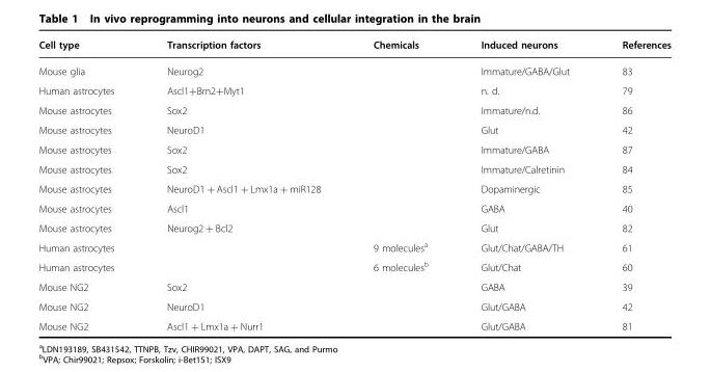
<table><thead><tr><td>Cell type</td><td>Transcription factors</td><td>Chemicals</td><td>Induced neurons</td><td>References</td></tr></thead><tbody><tr><td>Mouse glia</td><td>Neurog2</td><td></td><td>Immature/GABA/Glut</td><td>83</td></tr><tr><td>Human astrocytes</td><td>Ascl1+Brn2+Myt1</td><td></td><td>n. d.</td><td>79</td></tr><tr><td>Mouse astrocytes</td><td>Sox2</td><td></td><td>Immature/n.d.</td><td>86</td></tr><tr><td>Mouse astrocytes</td><td>NeuroD1</td><td></td><td>Glut</td><td>42</td></tr><tr><td>Mouse astrocytes</td><td>Sox2</td><td></td><td>Immature/GABA</td><td>87</td></tr><tr><td>Mouse astrocytes</td><td>Sox2</td><td></td><td>Immature/Calretinin</td><td>84</td></tr><tr><td>Mouse astrocytes</td><td>NeuroD1 + Ascl1 + Lmx1a + miR128</td><td></td><td>Dopaminergic</td><td>85</td></tr><tr><td>Mouse astrocytes</td><td>Ascl1</td><td></td><td>GABA</td><td>40</td></tr><tr><td>Mouse astrocytes</td><td>Neurog2 + Bcl2</td><td></td><td>Glut</td><td>82</td></tr><tr><td>Human astrocytes</td><td></td><td>9 molecules<sup>a</sup></td><td>Glut/Chat/GABA/TH</td><td>61</td></tr><tr><td>Human astrocytes</td><td></td><td>6 molecules<sup>b</sup></td><td>Glut/Chat</td><td>60</td></tr><tr><td>Mouse NG2</td><td>Sox2</td><td></td><td>GABA</td><td>39</td></tr><tr><td>Mouse NG2</td><td>NeuroD1</td><td></td><td>Glut/GABA</td><td>42</td></tr><tr><td>Mouse NG2</td><td>Ascl1 + Lmx1a + Nurr1</td><td></td><td>Glut/GABA</td><td>81</td></tr></tbody></table>